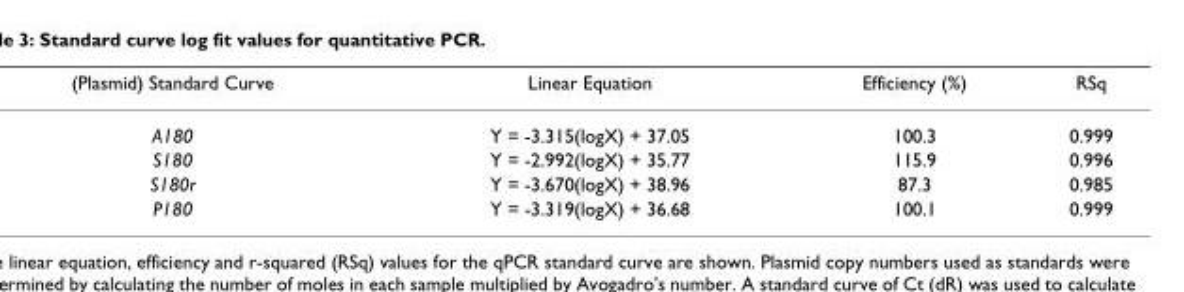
<table><thead><tr><td>(Plasmid) Standard Curve</td><td>Linear Equation</td><td>Efficiency (%)</td><td>RSq</td></tr></thead><tbody><tr><td>A180</td><td>Y = -3.315(logX) + 37.05</td><td>100.3</td><td>0.999</td></tr><tr><td>S180</td><td>Y = -2.992(logX) + 35.77</td><td>115.9</td><td>0.996</td></tr><tr><td>S180r</td><td>Y = -3.670(logX) + 38.96</td><td>87.3</td><td>0.985</td></tr><tr><td>P180</td><td>Y = -3.319(logX) + 36.68</td><td>100.1</td><td>0.999</td></tr></tbody></table>